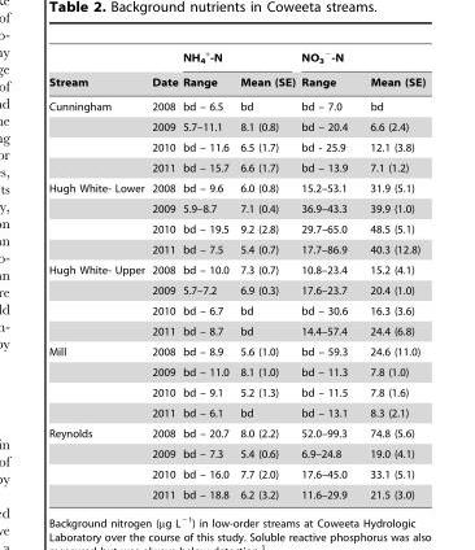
<table><thead><tr><td rowspan="2">Stream</td><td rowspan="2">Date</td><td colspan="2">NH<sub>4</sub> <sup>+</sup>-N</td><td colspan="2">NO<sub>3</sub> <sup>−</sup>-N</td></tr><tr><td>Range</td><td>Mean (SE)</td><td>Range</td><td>Mean (SE)</td></tr></thead><tbody><tr><td rowspan="4">Cunningham</td><td>2008</td><td>bd – 6.5</td><td>bd</td><td>bd – 7.0</td><td>bd</td></tr><tr><td>2009</td><td>5.7–11.1</td><td>8.1 (0.8)</td><td>bd – 20.4</td><td>6.6 (2.4)</td></tr><tr><td>2010</td><td>bd – 11.6</td><td>6.5 (1.7)</td><td>bd - 25.9</td><td>12.1 (3.8)</td></tr><tr><td>2011</td><td>bd – 15.7</td><td>6.6 (1.7)</td><td>bd – 13.9</td><td>7.1 (1.2)</td></tr><tr><td rowspan="4">Hugh White- Lower</td><td>2008</td><td>bd – 9.6</td><td>6.0 (0.8)</td><td>15.2–53.1</td><td>31.9 (5.1)</td></tr><tr><td>2009</td><td>5.9–8.7</td><td>7.1 (0.4)</td><td>36.9–43.3</td><td>39.9 (1.0)</td></tr><tr><td>2010</td><td>bd – 19.5</td><td>9.2 (2.8)</td><td>29.7–65.0</td><td>48.5 (5.1)</td></tr><tr><td>2011</td><td>bd – 7.5</td><td>5.4 (0.7)</td><td>17.7–86.9</td><td>40.3 (12.8)</td></tr><tr><td rowspan="4">Hugh White- Upper</td><td>2008</td><td>bd – 10.0</td><td>7.3 (0.7)</td><td>10.8–23.4</td><td>15.2 (4.1)</td></tr><tr><td>2009</td><td>5.7–7.2</td><td>6.9 (0.3)</td><td>17.6–23.7</td><td>20.4 (1.0)</td></tr><tr><td>2010</td><td>bd – 6.7</td><td>bd</td><td>bd – 30.6</td><td>16.3 (3.6)</td></tr><tr><td>2011</td><td>bd – 8.7</td><td>bd</td><td>14.4–57.4</td><td>24.4 (6.8)</td></tr><tr><td rowspan="4">Mill</td><td>2008</td><td>bd – 8.9</td><td>5.6 (1.0)</td><td>bd – 59.3</td><td>24.6 (11.0)</td></tr><tr><td>2009</td><td>bd – 11.0</td><td>8.1 (1.0)</td><td>bd – 11.3</td><td>7.8 (1.0)</td></tr><tr><td>2010</td><td>bd – 9.1</td><td>5.2 (1.3)</td><td>bd – 11.5</td><td>7.8 (1.6)</td></tr><tr><td>2011</td><td>bd – 6.1</td><td>bd</td><td>bd – 13.1</td><td>8.3 (2.1)</td></tr><tr><td rowspan="4">Reynolds</td><td>2008</td><td>bd – 20.7</td><td>8.0 (2.2)</td><td>52.0–99.3</td><td>74.8 (5.6)</td></tr><tr><td>2009</td><td>bd – 7.3</td><td>5.4 (0.6)</td><td>6.9–24.8</td><td>19.0 (4.1)</td></tr><tr><td>2010</td><td>bd – 16.0</td><td>7.7 (2.0)</td><td>17.6–45.0</td><td>33.1 (5.1)</td></tr><tr><td>2011</td><td>bd – 18.8</td><td>6.2 (3.2)</td><td>11.6–29.9</td><td>21.5 (3.0)</td></tr></tbody></table>